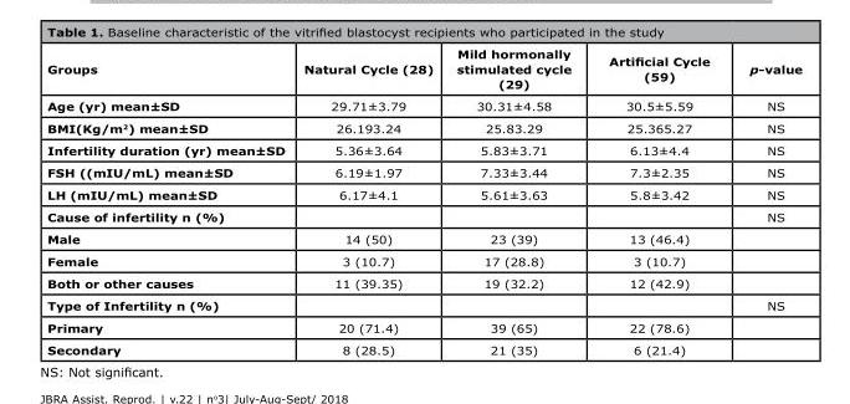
<table><thead><tr><td>Groups</td><td>Natural Cycle (28)</td><td>Mild hormonally stimulated cycle (29)</td><td>Artificial Cycle (59)</td><td>p-value</td></tr></thead><tbody><tr><td>Age (yr) mean±SD</td><td>29.71±3.79</td><td>30.31±4.58</td><td>30.5±5.59</td><td>NS</td></tr><tr><td>BMI(Kg/m<sup>2</sup>) mean±SD</td><td>26.193.24</td><td>25.83.29</td><td>25.365.27</td><td>NS</td></tr><tr><td>Infertility duration (yr) mean±SD</td><td>5.36±3.64</td><td>5.83±3.71</td><td>6.13±4.4</td><td>NS</td></tr><tr><td>FSH ((mIU/mL) mean±SD</td><td>6.19±1.97</td><td>7.33±3.44</td><td>7.3±2.35</td><td>NS</td></tr><tr><td>LH (mIU/mL) mean±SD</td><td>6.17±4.1</td><td>5.61±3.63</td><td>5.8±3.42</td><td>NS</td></tr><tr><td>Cause of infertility n (%)</td><td></td><td></td><td></td><td>NS</td></tr><tr><td>Male</td><td>14 (50)</td><td>23 (39)</td><td>13 (46.4)</td><td></td></tr><tr><td>Female</td><td>3 (10.7)</td><td>17 (28.8)</td><td>3 (10.7)</td><td></td></tr><tr><td>Both or other causes</td><td>11 (39.35)</td><td>19 (32.2)</td><td>12 (42.9)</td><td></td></tr><tr><td>Type of Infertility n (%)</td><td></td><td></td><td></td><td>NS</td></tr><tr><td>Primary</td><td>20 (71.4)</td><td>39 (65)</td><td>22 (78.6)</td><td></td></tr><tr><td>Secondary</td><td>8 (28.5)</td><td>21 (35)</td><td>6 (21.4)</td><td></td></tr></tbody></table>